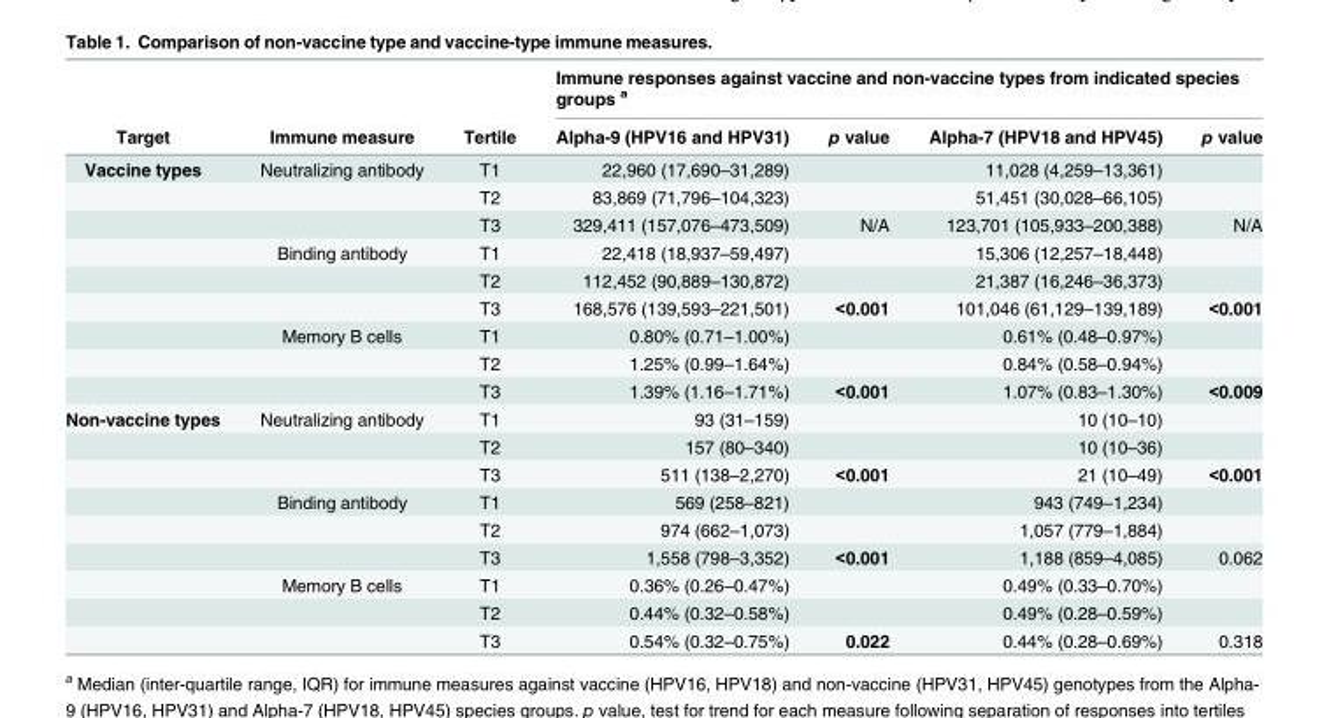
<table><thead><tr><td rowspan="2">Target</td><td rowspan="2">Immune measure</td><td rowspan="2">Tertile</td><td colspan="4">Immune responses against vaccine and non-vaccine types from indicated species groups <sup>a</sup></td></tr><tr><td>Alpha-9 (HPV16 and HPV31)</td><td>p value</td><td>Alpha-7 (HPV18 and HPV45)</td><td>p value</td></tr></thead><tbody><tr><td rowspan="9">Vaccine types</td><td>Neutralizing antibody</td><td>T1</td><td>22,960 (17,690–31,289)</td><td></td><td>11,028 (4,259–13,361)</td><td></td></tr><tr><td></td><td>T2</td><td>83,869 (71,796–104,323)</td><td></td><td>51,451 (30,028–66,105)</td><td></td></tr><tr><td></td><td>T3</td><td>329,411 (157,076–473,509)</td><td>N/A</td><td>123,701 (105,933–200,388)</td><td>N/A</td></tr><tr><td>Binding antibody</td><td>T1</td><td>22,418 (18,937–59,497)</td><td></td><td>15,306 (12,257–18,448)</td><td></td></tr><tr><td></td><td>T2</td><td>112,452 (90,889–130,872)</td><td></td><td>21,387 (16,246–36,373)</td><td></td></tr><tr><td></td><td>T3</td><td>168,576 (139,593–221,501)</td><td>&lt;0.001</td><td>101,046 (61,129–139,189)</td><td>&lt;0.001</td></tr><tr><td>Memory B cells</td><td>T1</td><td>0.80% (0.71–1.00%)</td><td></td><td>0.61% (0.48–0.97%)</td><td></td></tr><tr><td></td><td>T2</td><td>1.25% (0.99–1.64%)</td><td></td><td>0.84% (0.58–0.94%)</td><td></td></tr><tr><td></td><td>T3</td><td>1.39% (1.16–1.71%)</td><td>&lt;0.001</td><td>1.07% (0.83–1.30%)</td><td>&lt;0.009</td></tr><tr><td rowspan="9">Non-vaccine types</td><td>Neutralizing antibody</td><td>T1</td><td>93 (31–159)</td><td></td><td>10 (10–10)</td><td></td></tr><tr><td></td><td>T2</td><td>157 (80–340)</td><td></td><td>10 (10–36)</td><td></td></tr><tr><td></td><td>T3</td><td>511 (138–2,270)</td><td>&lt;0.001</td><td>21 (10–49)</td><td>&lt;0.001</td></tr><tr><td>Binding antibody</td><td>T1</td><td>569 (258–821)</td><td></td><td>943 (749–1,234)</td><td></td></tr><tr><td></td><td>T2</td><td>974 (662–1,073)</td><td></td><td>1,057 (779–1,884)</td><td></td></tr><tr><td></td><td>T3</td><td>1,558 (798–3,352)</td><td>&lt;0.001</td><td>1,188 (859–4,085)</td><td>0.062</td></tr><tr><td>Memory B cells</td><td>T1</td><td>0.36% (0.26–0.47%)</td><td></td><td>0.49% (0.33–0.70%)</td><td></td></tr><tr><td></td><td>T2</td><td>0.44% (0.32–0.58%)</td><td></td><td>0.49% (0.28–0.59%)</td><td></td></tr><tr><td></td><td>T3</td><td>0.54% (0.32–0.75%)</td><td>0.022</td><td>0.44% (0.28–0.69%)</td><td>0.318</td></tr></tbody></table>